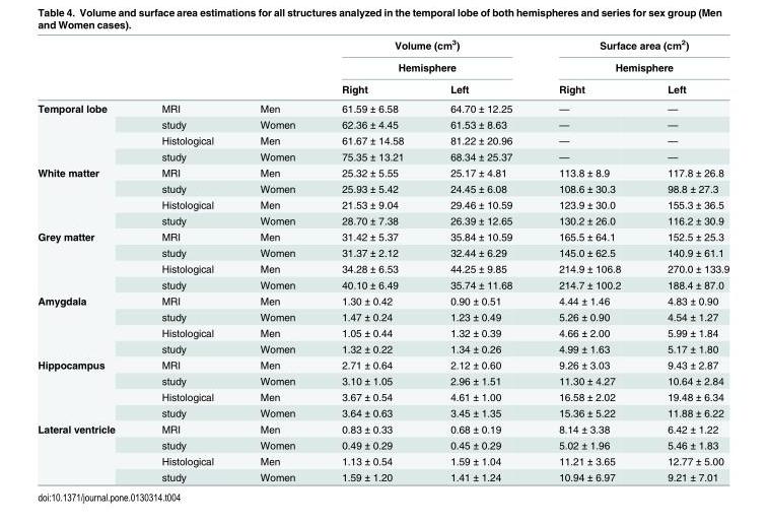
<table><thead><tr><td rowspan="3"></td><td rowspan="3"></td><td rowspan="3"></td><td rowspan="2" colspan="2">Volume (cm<sup>3</sup>) Hemisphere</td><td rowspan="2" colspan="2">Surface area (cm<sup>2</sup>) Hemisphere</td></tr><tr></tr><tr><td>Right</td><td>Left</td><td>Right</td><td>Left</td></tr></thead><tbody><tr><td rowspan="4">Temporal lobe</td><td>MRI</td><td>Men</td><td>61.59 ± 6.58</td><td>64.70 ± 12.25</td><td>—</td><td>—</td></tr><tr><td>study</td><td>Women</td><td>62.36 ± 4.45</td><td>61.53 ± 8.63</td><td>—</td><td>—</td></tr><tr><td>Histological</td><td>Men</td><td>61.67 ± 14.58</td><td>81.22 ± 20.96</td><td>—</td><td>—</td></tr><tr><td>study</td><td>Women</td><td>75.35 ± 13.21</td><td>68.34 ± 25.37</td><td>—</td><td>—</td></tr><tr><td rowspan="4">White matter</td><td>MRI</td><td>Men</td><td>25.32 ± 5.55</td><td>25.17 ± 4.81</td><td>113.8 ± 8.9</td><td>117.8 ± 26.8</td></tr><tr><td>study</td><td>Women</td><td>25.93 ± 5.42</td><td>24.45 ± 6.08</td><td>108.6 ± 30.3</td><td>98.8 ± 27.3</td></tr><tr><td>Histological</td><td>Men</td><td>21.53 ± 9.04</td><td>29.46 ± 10.59</td><td>123.9 ± 30.0</td><td>155.3 ± 36.5</td></tr><tr><td>study</td><td>Women</td><td>28.70 ± 7.38</td><td>26.39 ± 12.65</td><td>130.2 ± 26.0</td><td>116.2 ± 30.9</td></tr><tr><td rowspan="4">Grey matter</td><td>MRI</td><td>Men</td><td>31.42 ± 5.37</td><td>35.84 ± 10.59</td><td>165.5 ± 64.1</td><td>152.5 ± 25.3</td></tr><tr><td>study</td><td>Women</td><td>31.37 ± 2.12</td><td>32.44 ± 6.29</td><td>145.0 ± 62.5</td><td>140.9 ± 61.1</td></tr><tr><td>Histological</td><td>Men</td><td>34.28 ± 6.53</td><td>44.25 ± 9.85</td><td>214.9 ± 106.8</td><td>270.0 ± 133.9</td></tr><tr><td>study</td><td>Women</td><td>40.10 ± 6.49</td><td>35.74 ± 11.68</td><td>214.7 ± 100.2</td><td>188.4 ± 87.0</td></tr><tr><td rowspan="4">Amygdala</td><td>MRI</td><td>Men</td><td>1.30 ± 0.42</td><td>0.90 ± 0.51</td><td>4.44 ± 1.46</td><td>4.83 ± 0.90</td></tr><tr><td>study</td><td>Women</td><td>1.47 ± 0.24</td><td>1.23 ± 0.49</td><td>5.26 ± 0.90</td><td>4.54 ± 1.27</td></tr><tr><td>Histological</td><td>Men</td><td>1.05 ± 0.44</td><td>1.32 ± 0.39</td><td>4.66 ± 2.00</td><td>5.99 ± 1.84</td></tr><tr><td>study</td><td>Women</td><td>1.32 ± 0.22</td><td>1.34 ± 0.26</td><td>4.99 ± 1.63</td><td>5.17 ± 1.80</td></tr><tr><td rowspan="4">Hippocampus</td><td>MRI</td><td>Men</td><td>2.71 ± 0.64</td><td>2.12 ± 0.60</td><td>9.26 ± 3.03</td><td>9.43 ± 2.87</td></tr><tr><td>study</td><td>Women</td><td>3.10 ± 1.05</td><td>2.96 ± 1.51</td><td>11.30 ± 4.27</td><td>10.64 ± 2.84</td></tr><tr><td>Histological</td><td>Men</td><td>3.67 ± 0.54</td><td>4.61 ± 1.00</td><td>16.58 ± 2.02</td><td>19.48 ± 6.34</td></tr><tr><td>study</td><td>Women</td><td>3.64 ± 0.63</td><td>3.45 ± 1.35</td><td>15.36 ± 5.22</td><td>11.88 ± 6.22</td></tr><tr><td rowspan="4">Lateral ventricle</td><td>MRI</td><td>Men</td><td>0.83 ± 0.33</td><td>0.68 ± 0.19</td><td>8.14 ± 3.38</td><td>6.42 ± 1.22</td></tr><tr><td>study</td><td>Women</td><td>0.49 ± 0.29</td><td>0.45 ± 0.29</td><td>5.02 ± 1.96</td><td>5.46 ± 1.83</td></tr><tr><td>Histological</td><td>Men</td><td>1.13 ± 0.54</td><td>1.59 ± 1.04</td><td>11.21 ± 3.65</td><td>12.77 ± 5.00</td></tr><tr><td>study</td><td>Women</td><td>1.59 ± 1.20</td><td>1.41 ± 1.24</td><td>10.94 ± 6.97</td><td>9.21 ± 7.01</td></tr></tbody></table>